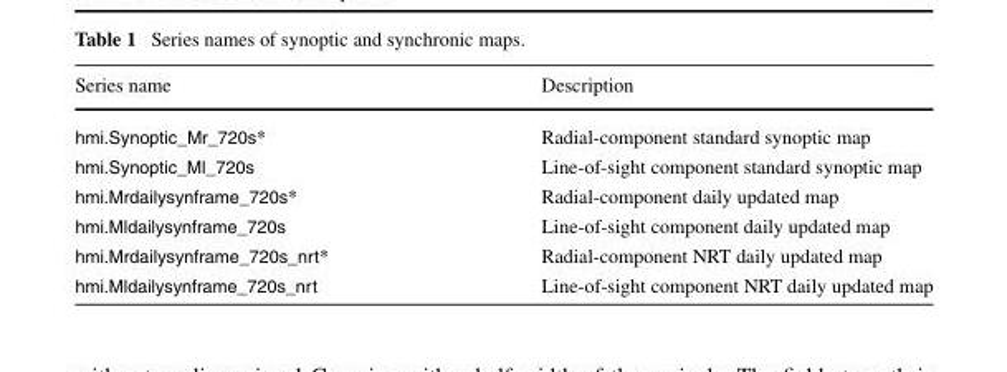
<table><thead><tr><td>Series name</td><td>Description</td></tr></thead><tbody><tr><td>hmi.Synoptic_Mr_720s*</td><td>Radial-component standard synoptic map</td></tr><tr><td>hmi.Synoptic_Ml_720s</td><td>Line-of-sight component standard synoptic map</td></tr><tr><td>hmi.Mrdailysynframe_720s*</td><td>Radial-component daily updated map</td></tr><tr><td>hmi.Mldailysynframe_720s</td><td>Line-of-sight component daily updated map</td></tr><tr><td>hmi.Mrdailysynframe_720s_nrt*</td><td>Radial-component NRT daily updated map</td></tr><tr><td>hmi.Mldailysynframe_720s_nrt</td><td>Line-of-sight component NRT daily updated map</td></tr></tbody></table>